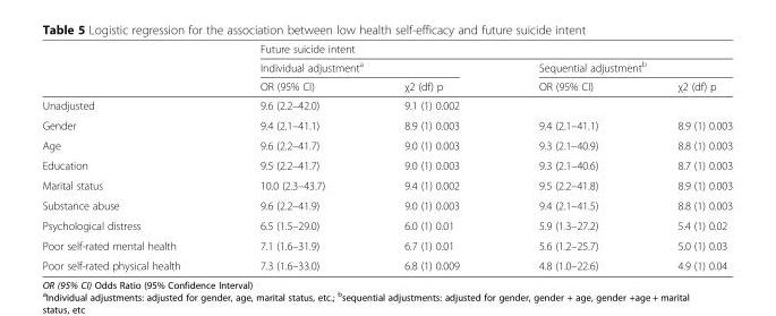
<table><thead><tr><td rowspan="3"></td><td colspan="4">Future suicide intent</td></tr><tr><td colspan="2">Individual adjustment<sup>a</sup></td><td colspan="2">Sequential adjustment<sup>b</sup></td></tr><tr><td>OR (95% CI)</td><td>χ2 (df) p</td><td>OR (95% CI)</td><td>χ2 (df) p</td></tr></thead><tbody><tr><td>Unadjusted</td><td>9.6 (2.2–42.0)</td><td>9.1 (1) 0.002</td><td></td><td></td></tr><tr><td>Gender</td><td>9.4 (2.1–41.1)</td><td>8.9 (1) 0.003</td><td>9.4 (2.1–41.1)</td><td>8.9 (1) 0.003</td></tr><tr><td>Age</td><td>9.6 (2.2–41.7)</td><td>9.0 (1) 0.003</td><td>9.3 (2.1–40.9)</td><td>8.8 (1) 0.003</td></tr><tr><td>Education</td><td>9.5 (2.2–41.7)</td><td>9.0 (1) 0.003</td><td>9.3 (2.1–40.6)</td><td>8.7 (1) 0.003</td></tr><tr><td>Marital status</td><td>10.0 (2.3–43.7)</td><td>9.4 (1) 0.002</td><td>9.5 (2.2–41.8)</td><td>8.9 (1) 0.003</td></tr><tr><td>Substance abuse</td><td>9.6 (2.2–41.9)</td><td>9.0 (1) 0.003</td><td>9.4 (2.1–41.5)</td><td>8.8 (1) 0.003</td></tr><tr><td>Psychological distress</td><td>6.5 (1.5–29.0)</td><td>6.0 (1) 0.01</td><td>5.9 (1.3–27.2)</td><td>5.4 (1) 0.02</td></tr><tr><td>Poor self-rated mental health</td><td>7.1 (1.6–31.9)</td><td>6.7 (1) 0.01</td><td>5.6 (1.2–25.7)</td><td>5.0 (1) 0.03</td></tr><tr><td>Poor self-rated physical health</td><td>7.3 (1.6–33.0)</td><td>6.8 (1) 0.009</td><td>4.8 (1.0–22.6)</td><td>4.9 (1) 0.04</td></tr></tbody></table>